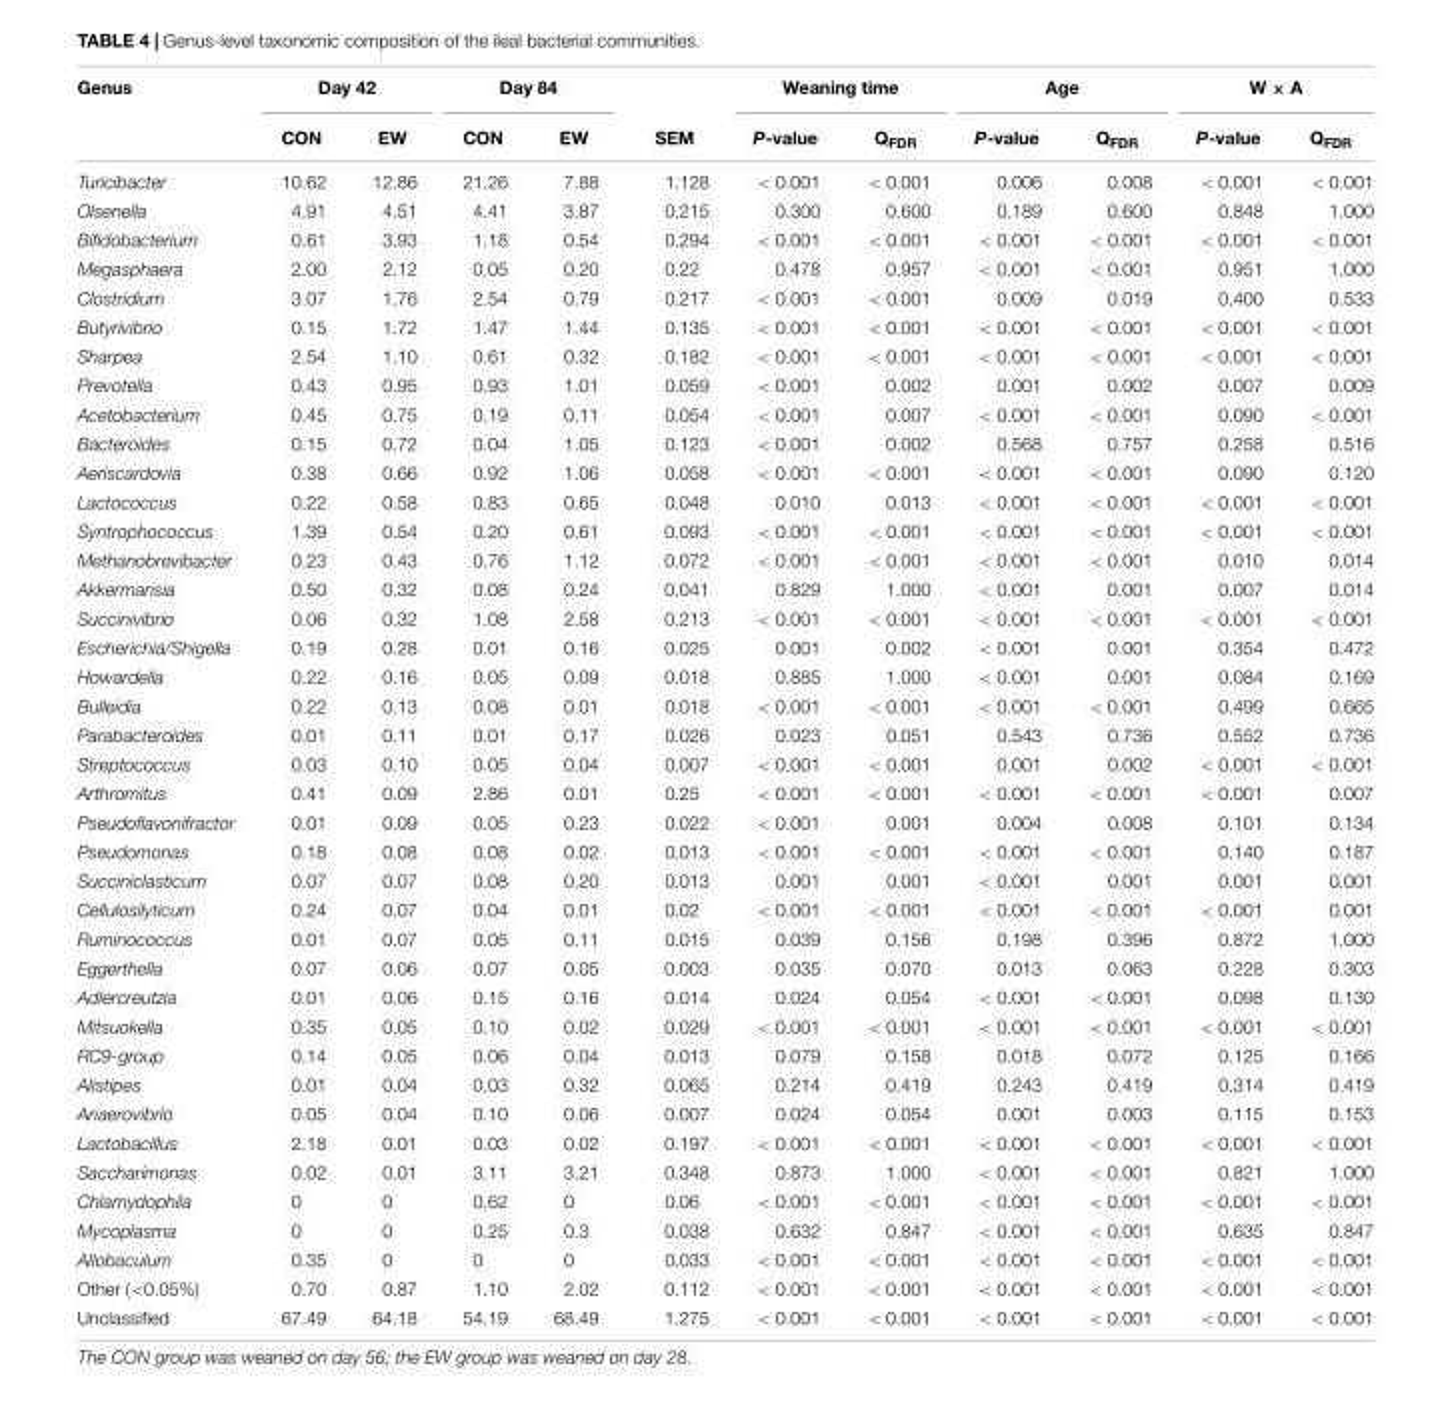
<table><thead><tr><td rowspan="2">Genus</td><td colspan="2">Day 42</td><td colspan="2">Day 84</td><td rowspan="2">SEM</td><td colspan="2">Weaning time</td><td colspan="2">Age</td><td colspan="2">W × A</td></tr><tr><td>CON</td><td>EW</td><td>CON</td><td>EW</td><td>P-value</td><td>Q<sub>FDR</sub></td><td>P-value</td><td>Q<sub>FDR</sub></td><td>P-value</td><td>Q<sub>FDR</sub></td></tr></thead><tbody><tr><td>Turicibacter</td><td>10.62</td><td>12.86</td><td>21.26</td><td>7.88</td><td>1.128</td><td>&lt; 0.001</td><td>&lt; 0.001</td><td>0.006</td><td>0.008</td><td>&lt; 0.001</td><td>&lt; 0.001</td></tr><tr><td>Olsenella</td><td>4.91</td><td>4.51</td><td>4.41</td><td>3.87</td><td>0.215</td><td>0.300</td><td>0.600</td><td>0.189</td><td>0.600</td><td>0.848</td><td>1.000</td></tr><tr><td>Bifidobacterium</td><td>0.61</td><td>3.93</td><td>1.18</td><td>0.54</td><td>0.294</td><td>&lt; 0.001</td><td>&lt; 0.001</td><td>&lt; 0.001</td><td>&lt; 0.001</td><td>&lt; 0.001</td><td>&lt; 0.001</td></tr><tr><td>Megasphaera</td><td>2.00</td><td>2.12</td><td>0.05</td><td>0.20</td><td>0.22</td><td>0.478</td><td>0.957</td><td>&lt; 0.001</td><td>&lt; 0.001</td><td>0.951</td><td>1.000</td></tr><tr><td>Clostridium</td><td>3.07</td><td>1.76</td><td>2.54</td><td>0.79</td><td>0.217</td><td>&lt; 0.001</td><td>&lt; 0.001</td><td>0.009</td><td>0.019</td><td>0.400</td><td>0.533</td></tr><tr><td>Butyrivibrio</td><td>0.15</td><td>1.72</td><td>1.47</td><td>1.44</td><td>0.135</td><td>&lt; 0.001</td><td>&lt; 0.001</td><td>&lt; 0.001</td><td>&lt; 0.001</td><td>&lt; 0.001</td><td>&lt; 0.001</td></tr><tr><td>Sharpea</td><td>2.54</td><td>1.10</td><td>0.61</td><td>0.32</td><td>0.182</td><td>&lt; 0.001</td><td>&lt; 0.001</td><td>&lt; 0.001</td><td>&lt; 0.001</td><td>&lt; 0.001</td><td>&lt; 0.001</td></tr><tr><td>Prevotella</td><td>0.43</td><td>0.95</td><td>0.93</td><td>1.01</td><td>0.059</td><td>&lt; 0.001</td><td>0.002</td><td>0.001</td><td>0.002</td><td>0.007</td><td>0.009</td></tr><tr><td>Acetobacterium</td><td>0.45</td><td>0.75</td><td>0.19</td><td>0.11</td><td>0.054</td><td>&lt; 0.001</td><td>0.007</td><td>&lt; 0.001</td><td>&lt; 0.001</td><td>0.090</td><td>&lt; 0.001</td></tr><tr><td>Bacteroides</td><td>0.15</td><td>0.72</td><td>0.04</td><td>1.05</td><td>0.123</td><td>&lt; 0.001</td><td>0.002</td><td>0.568</td><td>0.757</td><td>0.258</td><td>0.516</td></tr><tr><td>Aeriscardovia</td><td>0.38</td><td>0.66</td><td>0.92</td><td>1.06</td><td>0.058</td><td>&lt; 0.001</td><td>&lt; 0.001</td><td>&lt; 0.001</td><td>&lt; 0.001</td><td>0.090</td><td>0.120</td></tr><tr><td>Lactococcus</td><td>0.22</td><td>0.58</td><td>0.83</td><td>0.65</td><td>0.048</td><td>0.010</td><td>0.013</td><td>&lt; 0.001</td><td>&lt; 0.001</td><td>&lt; 0.001</td><td>&lt; 0.001</td></tr><tr><td>Syntrophococcus</td><td>1.39</td><td>0.54</td><td>0.20</td><td>0.61</td><td>0.093</td><td>&lt; 0.001</td><td>&lt; 0.001</td><td>&lt; 0.001</td><td>&lt; 0.001</td><td>&lt; 0.001</td><td>&lt; 0.001</td></tr><tr><td>Methanobrevibacter</td><td>0.23</td><td>0.43</td><td>0.76</td><td>1.12</td><td>0.072</td><td>&lt; 0.001</td><td>&lt; 0.001</td><td>&lt; 0.001</td><td>&lt; 0.001</td><td>0.010</td><td>0.014</td></tr><tr><td>Akkermansia</td><td>0.50</td><td>0.32</td><td>0.08</td><td>0.24</td><td>0.041</td><td>0.829</td><td>1.000</td><td>&lt; 0.001</td><td>0.001</td><td>0.007</td><td>0.014</td></tr><tr><td>Succinivibrio</td><td>0.06</td><td>0.32</td><td>1.08</td><td>2.58</td><td>0.213</td><td>&lt; 0.001</td><td>&lt; 0.001</td><td>&lt; 0.001</td><td>&lt; 0.001</td><td>&lt; 0.001</td><td>&lt; 0.001</td></tr><tr><td>Escherichia/Shigella</td><td>0.19</td><td>0.28</td><td>0.01</td><td>0.16</td><td>0.025</td><td>0.001</td><td>0.002</td><td>&lt; 0.001</td><td>0.001</td><td>0.354</td><td>0.472</td></tr><tr><td>Howardella</td><td>0.22</td><td>0.16</td><td>0.05</td><td>0.09</td><td>0.018</td><td>0.885</td><td>1.000</td><td>&lt; 0.001</td><td>0.001</td><td>0.084</td><td>0.169</td></tr><tr><td>Bulleidia</td><td>0.22</td><td>0.13</td><td>0.08</td><td>0.01</td><td>0.018</td><td>&lt; 0.001</td><td>&lt; 0.001</td><td>&lt; 0.001</td><td>&lt; 0.001</td><td>0.499</td><td>0.665</td></tr><tr><td>Parabacteroides</td><td>0.01</td><td>0.11</td><td>0.01</td><td>0.17</td><td>0.026</td><td>0.023</td><td>0.051</td><td>0.543</td><td>0.736</td><td>0.552</td><td>0.736</td></tr><tr><td>Streptococcus</td><td>0.03</td><td>0.10</td><td>0.05</td><td>0.04</td><td>0.007</td><td>&lt; 0.001</td><td>&lt; 0.001</td><td>0.001</td><td>0.002</td><td>&lt; 0.001</td><td>&lt; 0.001</td></tr><tr><td>Arthromitus</td><td>0.41</td><td>0.09</td><td>2.86</td><td>0.01</td><td>0.25</td><td>&lt; 0.001</td><td>&lt; 0.001</td><td>&lt; 0.001</td><td>&lt; 0.001</td><td>&lt; 0.001</td><td>0.007</td></tr><tr><td>Pseudoflavonifractor</td><td>0.01</td><td>0.09</td><td>0.05</td><td>0.23</td><td>0.022</td><td>&lt; 0.001</td><td>0.001</td><td>0.004</td><td>0.008</td><td>0.101</td><td>0.134</td></tr><tr><td>Pseudomonas</td><td>0.18</td><td>0.08</td><td>0.08</td><td>0.02</td><td>0.013</td><td>&lt; 0.001</td><td>&lt; 0.001</td><td>&lt; 0.001</td><td>&lt; 0.001</td><td>0.140</td><td>0.187</td></tr><tr><td>Succiniclasticum</td><td>0.07</td><td>0.07</td><td>0.08</td><td>0.20</td><td>0.013</td><td>0.001</td><td>0.001</td><td>&lt; 0.001</td><td>0.001</td><td>0.001</td><td>0.001</td></tr><tr><td>Cellulosilyticum</td><td>0.24</td><td>0.07</td><td>0.04</td><td>0.01</td><td>0.02</td><td>&lt; 0.001</td><td>&lt; 0.001</td><td>&lt; 0.001</td><td>&lt; 0.001</td><td>&lt; 0.001</td><td>0.001</td></tr><tr><td>Ruminococcus</td><td>0.01</td><td>0.07</td><td>0.05</td><td>0.11</td><td>0.015</td><td>0.039</td><td>0.156</td><td>0.198</td><td>0.396</td><td>0.872</td><td>1.000</td></tr><tr><td>Eggerthella</td><td>0.07</td><td>0.06</td><td>0.07</td><td>0.05</td><td>0.003</td><td>0.035</td><td>0.070</td><td>0.013</td><td>0.063</td><td>0.228</td><td>0.303</td></tr><tr><td>Adlercreutzia</td><td>0.01</td><td>0.06</td><td>0.15</td><td>0.16</td><td>0.014</td><td>0.024</td><td>0.054</td><td>&lt; 0.001</td><td>&lt; 0.001</td><td>0.098</td><td>0.130</td></tr><tr><td>Mitsuokella</td><td>0.35</td><td>0.05</td><td>0.10</td><td>0.02</td><td>0.029</td><td>&lt; 0.001</td><td>&lt; 0.001</td><td>&lt; 0.001</td><td>&lt; 0.001</td><td>&lt; 0.001</td><td>&lt; 0.001</td></tr><tr><td>RC9-group</td><td>0.14</td><td>0.05</td><td>0.06</td><td>0.04</td><td>0.013</td><td>0.079</td><td>0.158</td><td>0.018</td><td>0.072</td><td>0.125</td><td>0.166</td></tr><tr><td>Alistipes</td><td>0.01</td><td>0.04</td><td>0.03</td><td>0.32</td><td>0.065</td><td>0.214</td><td>0.419</td><td>0.243</td><td>0.419</td><td>0.314</td><td>0.419</td></tr><tr><td>Anaerovibrio</td><td>0.05</td><td>0.04</td><td>0.10</td><td>0.06</td><td>0.007</td><td>0.024</td><td>0.054</td><td>0.001</td><td>0.003</td><td>0.115</td><td>0.153</td></tr><tr><td>Lactobacillus</td><td>2.18</td><td>0.01</td><td>0.03</td><td>0.02</td><td>0.197</td><td>&lt; 0.001</td><td>&lt; 0.001</td><td>&lt; 0.001</td><td>&lt; 0.001</td><td>&lt; 0.001</td><td>&lt; 0.001</td></tr><tr><td>Saccharimonas</td><td>0.02</td><td>0.01</td><td>3.11</td><td>3.21</td><td>0.348</td><td>0.873</td><td>1.000</td><td>&lt; 0.001</td><td>&lt; 0.001</td><td>0.821</td><td>1.000</td></tr><tr><td>Chlamydophila</td><td>0</td><td>0</td><td>0.62</td><td>0</td><td>0.06</td><td>&lt; 0.001</td><td>&lt; 0.001</td><td>&lt; 0.001</td><td>&lt; 0.001</td><td>&lt; 0.001</td><td>&lt; 0.001</td></tr><tr><td>Mycoplasma</td><td>0</td><td>0</td><td>0.25</td><td>0.3</td><td>0.038</td><td>0.632</td><td>0.847</td><td>&lt; 0.001</td><td>&lt; 0.001</td><td>0.635</td><td>0.847</td></tr><tr><td>Allobaculum</td><td>0.35</td><td>0</td><td>0</td><td>0</td><td>0.033</td><td>&lt; 0.001</td><td>&lt; 0.001</td><td>&lt; 0.001</td><td>&lt; 0.001</td><td>&lt; 0.001</td><td>&lt; 0.001</td></tr><tr><td>Other (&lt;0.05%)</td><td>0.70</td><td>0.87</td><td>1.10</td><td>2.02</td><td>0.112</td><td>&lt; 0.001</td><td>&lt; 0.001</td><td>&lt; 0.001</td><td>&lt; 0.001</td><td>&lt; 0.001</td><td>&lt; 0.001</td></tr><tr><td>Unclassified</td><td>67.49</td><td>64.18</td><td>54.19</td><td>68.49</td><td>1.275</td><td>&lt; 0.001</td><td>&lt; 0.001</td><td>&lt; 0.001</td><td>&lt; 0.001</td><td>&lt; 0.001</td><td>&lt; 0.001</td></tr></tbody></table>